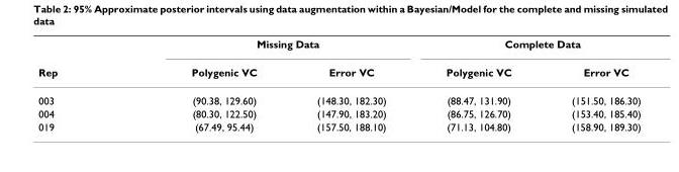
<table><thead><tr><td rowspan="2">Rep</td><td colspan="2">Missing Data</td><td colspan="2">Complete Data</td></tr><tr><td>Polygenic VC</td><td>Error VC</td><td>Polygenic VC</td><td>Error VC</td></tr></thead><tbody><tr><td>003</td><td>(90.38, 129.60)</td><td>(148.30, 182.30)</td><td>(88.47, 131.90)</td><td>(151.50, 186.30)</td></tr><tr><td>004</td><td>(80.30, 122.50)</td><td>(147.90, 183.20)</td><td>(86.75, 126.70)</td><td>(153.40, 185.40)</td></tr><tr><td>019</td><td>(67.49, 95.44)</td><td>(157.50, 188.10)</td><td>(71.13, 104.80)</td><td>(158.90, 189.30)</td></tr></tbody></table>